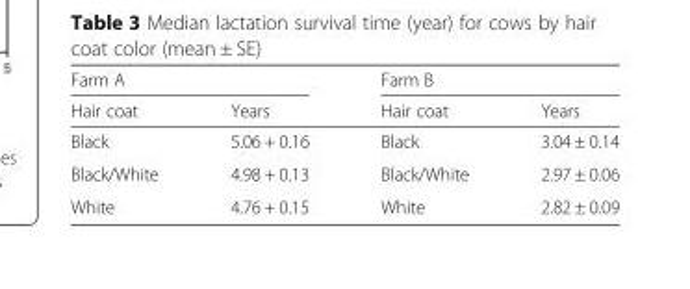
<table><thead><tr><td colspan="2">Farm A</td><td colspan="2">Farm B</td></tr><tr><td>Hair coat</td><td>Years</td><td>Hair coat</td><td>Years</td></tr></thead><tbody><tr><td>Black</td><td>5.06 + 0.16</td><td>Black</td><td>3.04 ± 0.14</td></tr><tr><td>Black/White</td><td>4.98 + 0.13</td><td>Black/White</td><td>2.97 ± 0.06</td></tr><tr><td>White</td><td>4.76 + 0.15</td><td>White</td><td>2.82 ± 0.09</td></tr></tbody></table>